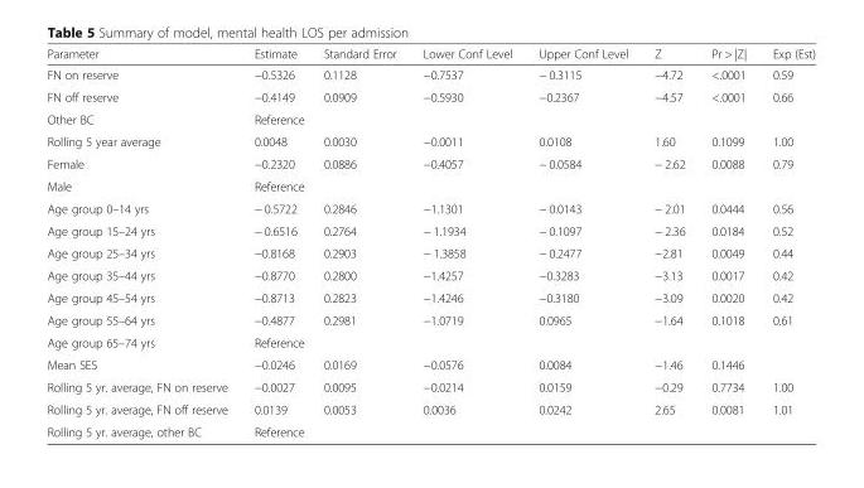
<table><thead><tr><td>Parameter</td><td>Estimate</td><td>Standard Error</td><td>Lower Conf Level</td><td>Upper Conf Level</td><td>Z</td><td>Pr &gt; |Z|</td><td>Exp (Est)</td></tr></thead><tbody><tr><td>FN on reserve</td><td>−0.5326</td><td>0.1128</td><td>−0.7537</td><td>− 0.3115</td><td>−4.72</td><td>&lt;.0001</td><td>0.59</td></tr><tr><td>FN off reserve</td><td>−0.4149</td><td>0.0909</td><td>−0.5930</td><td>−0.2367</td><td>−4.57</td><td>&lt;.0001</td><td>0.66</td></tr><tr><td>Other BC</td><td colspan="7">Reference</td></tr><tr><td>Rolling 5 year average</td><td>0.0048</td><td>0.0030</td><td>−0.0011</td><td>0.0108</td><td>1.60</td><td>0.1099</td><td>1.00</td></tr><tr><td>Female</td><td>−0.2320</td><td>0.0886</td><td>−0.4057</td><td>− 0.0584</td><td>− 2.62</td><td>0.0088</td><td>0.79</td></tr><tr><td>Male</td><td colspan="7">Reference</td></tr><tr><td>Age group 0–14 yrs</td><td>− 0.5722</td><td>0.2846</td><td>−1.1301</td><td>− 0.0143</td><td>− 2.01</td><td>0.0444</td><td>0.56</td></tr><tr><td>Age group 15–24 yrs</td><td>− 0.6516</td><td>0.2764</td><td>− 1.1934</td><td>− 0.1097</td><td>− 2.36</td><td>0.0184</td><td>0.52</td></tr><tr><td>Age group 25–34 yrs</td><td>−0.8168</td><td>0.2903</td><td>− 1.3858</td><td>− 0.2477</td><td>−2.81</td><td>0.0049</td><td>0.44</td></tr><tr><td>Age group 35–44 yrs</td><td>−0.8770</td><td>0.2800</td><td>−1.4257</td><td>−0.3283</td><td>−3.13</td><td>0.0017</td><td>0.42</td></tr><tr><td>Age group 45–54 yrs</td><td>−0.8713</td><td>0.2823</td><td>−1.4246</td><td>−0.3180</td><td>−3.09</td><td>0.0020</td><td>0.42</td></tr><tr><td>Age group 55–64 yrs</td><td>−0.4877</td><td>0.2981</td><td>−1.0719</td><td>0.0965</td><td>−1.64</td><td>0.1018</td><td>0.61</td></tr><tr><td>Age group 65–74 yrs</td><td colspan="7">Reference</td></tr><tr><td>Mean SES</td><td>−0.0246</td><td>0.0169</td><td>−0.0576</td><td>0.0084</td><td>−1.46</td><td>0.1446</td><td></td></tr><tr><td>Rolling 5 yr. average, FN on reserve</td><td>−0.0027</td><td>0.0095</td><td>−0.0214</td><td>0.0159</td><td>−0.29</td><td>0.7734</td><td>1.00</td></tr><tr><td>Rolling 5 yr. average, FN off reserve</td><td>0.0139</td><td>0.0053</td><td>0.0036</td><td>0.0242</td><td>2.65</td><td>0.0081</td><td>1.01</td></tr><tr><td>Rolling 5 yr. average, other BC</td><td colspan="7">Reference</td></tr></tbody></table>